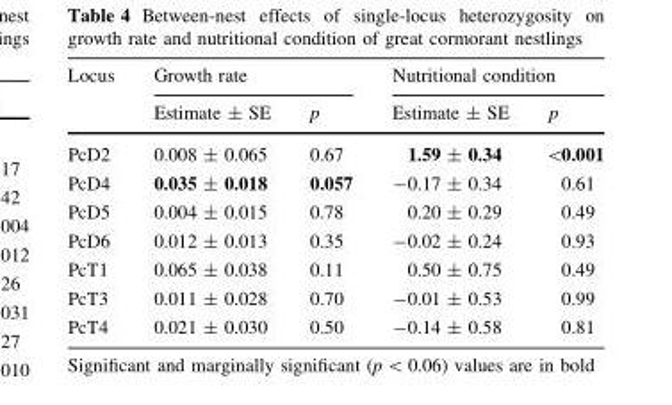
<table><thead><tr><td rowspan="2">Locus</td><td colspan="2">Growth rate</td><td colspan="2">Nutritional condition</td></tr><tr><td>Estimate ± SE</td><td>p</td><td>Estimate ± SE</td><td>p</td></tr></thead><tbody><tr><td>PcD2</td><td>0.008 ± 0.065</td><td>0.67</td><td>1.59 ± 0.34</td><td>&lt;0.001</td></tr><tr><td>PcD4</td><td>0.035 ± 0.018</td><td>0.057</td><td>-0.17 ± 0.34</td><td>0.61</td></tr><tr><td>PcD5</td><td>0.004 ± 0.015</td><td>0.78</td><td>0.20 ± 0.29</td><td>0.49</td></tr><tr><td>PcD6</td><td>0.012 ± 0.013</td><td>0.35</td><td>-0.02 ± 0.24</td><td>0.93</td></tr><tr><td>PcT1</td><td>0.065 ± 0.038</td><td>0.11</td><td>0.50 ± 0.75</td><td>0.49</td></tr><tr><td>PcT3</td><td>0.011 ± 0.028</td><td>0.70</td><td>-0.01 ± 0.53</td><td>0.99</td></tr><tr><td>PcT4</td><td>0.021 ± 0.030</td><td>0.50</td><td>-0.14 ± 0.58</td><td>0.81</td></tr></tbody></table>